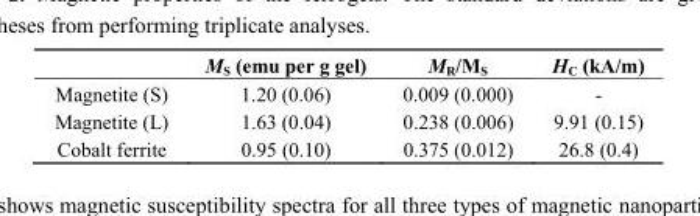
<table><thead><tr><td></td><td>M<sub>S</sub> (emu per g gel)</td><td>M<sub>R</sub>/M<sub>S</sub></td><td>H<sub>C</sub> (kA/m)</td></tr></thead><tbody><tr><td>Magnetite (S)</td><td>1.20 (0.06)</td><td>0.009 (0.000)</td><td>-</td></tr><tr><td>Magnetite (L)</td><td>1.63 (0.04)</td><td>0.238 (0.006)</td><td>9.91 (0.15)</td></tr><tr><td>Cobalt ferrite</td><td>0.95 (0.10)</td><td>0.375 (0.012)</td><td>26.8 (0.4)</td></tr></tbody></table>